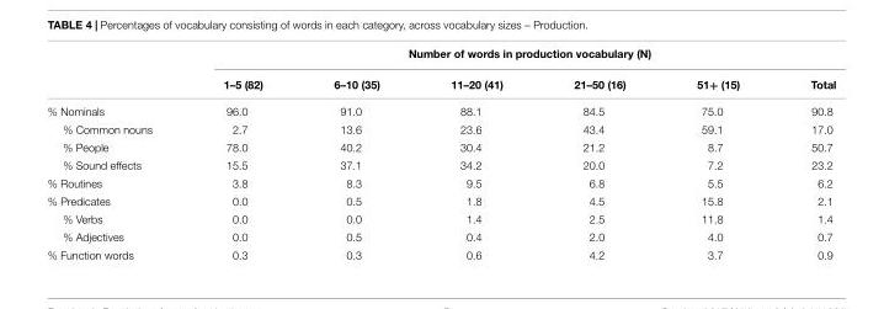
<table><thead><tr><td rowspan="2"></td><td colspan="6">Number of words in production vocabulary (N)</td></tr><tr><td>1–5 (82)</td><td>6–10 (35)</td><td>11–20 (41)</td><td>21–50 (16)</td><td>51+ (15)</td><td>Total</td></tr></thead><tbody><tr><td>% Nominals</td><td>96.0</td><td>91.0</td><td>88.1</td><td>84.5</td><td>75.0</td><td>90.8</td></tr><tr><td>% Common nouns</td><td>2.7</td><td>13.6</td><td>23.6</td><td>43.4</td><td>59.1</td><td>17.0</td></tr><tr><td>% People</td><td>78.0</td><td>40.2</td><td>30.4</td><td>21.2</td><td>8.7</td><td>50.7</td></tr><tr><td>% Sound effects</td><td>15.5</td><td>37.1</td><td>34.2</td><td>20.0</td><td>7.2</td><td>23.2</td></tr><tr><td>% Routines</td><td>3.8</td><td>8.3</td><td>9.5</td><td>6.8</td><td>5.5</td><td>6.2</td></tr><tr><td>% Predicates</td><td>0.0</td><td>0.5</td><td>1.8</td><td>4.5</td><td>15.8</td><td>2.1</td></tr><tr><td>% Verbs</td><td>0.0</td><td>0.0</td><td>1.4</td><td>2.5</td><td>11.8</td><td>1.4</td></tr><tr><td>% Adjectives</td><td>0.0</td><td>0.5</td><td>0.4</td><td>2.0</td><td>4.0</td><td>0.7</td></tr><tr><td>% Function words</td><td>0.3</td><td>0.3</td><td>0.6</td><td>4.2</td><td>3.7</td><td>0.9</td></tr></tbody></table>